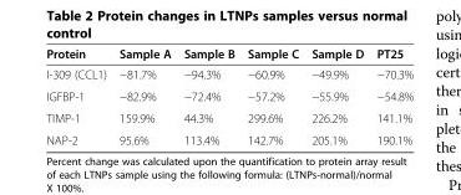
<table><thead><tr><td>Protein</td><td>Sample A</td><td>Sample B</td><td>Sample C</td><td>Sample D</td><td>PT25</td></tr></thead><tbody><tr><td>I-309 (CCL1)</td><td>−81.7%</td><td>−94.3%</td><td>−60.9%</td><td>−49.9%</td><td>−70.3%</td></tr><tr><td>IGFBP-1</td><td>−82.9%</td><td>−72.4%</td><td>−57.2%</td><td>−55.9%</td><td>−54.8%</td></tr><tr><td>TIMP-1</td><td>159.9%</td><td>44.3%</td><td>299.6%</td><td>226.2%</td><td>141.1%</td></tr><tr><td>NAP-2</td><td>95.6%</td><td>113.4%</td><td>142.7%</td><td>205.1%</td><td>190.1%</td></tr></tbody></table>